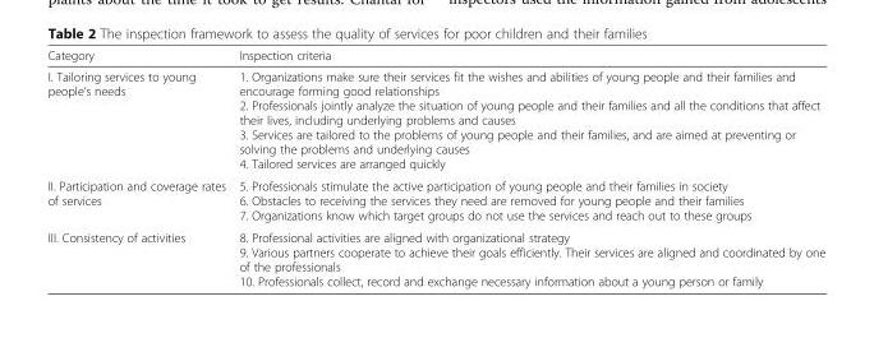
<table><thead><tr><td>Category</td><td>Inspection criteria</td></tr></thead><tbody><tr><td>I. Tailoring services to young people’s needs</td><td>1. Organizations make sure their services fit the wishes and abilities of young people and their families and encourage forming good relationships 2. Professionals jointly analyze the situation of young people and their families and all the conditions that affect their lives, including underlying problems and causes 3. Services are tailored to the problems of young people and their families, and are aimed at preventing or solving the problems and underlying causes 4. Tailored services are arranged quickly</td></tr><tr><td>II. Participation and coverage rates of services</td><td>5. Professionals stimulate the active participation of young people and their families in society 6. Obstacles to receiving the services they need are removed for young people and their families 7. Organizations know which target groups do not use the services and reach out to these groups</td></tr><tr><td>III. Consistency of activities</td><td>8. Professional activities are aligned with organizational strategy 9. Various partners cooperate to achieve their goals efficiently. Their services are aligned and coordinated by one of the professionals 10. Professionals collect, record and exchange necessary information about a young person or family</td></tr></tbody></table>